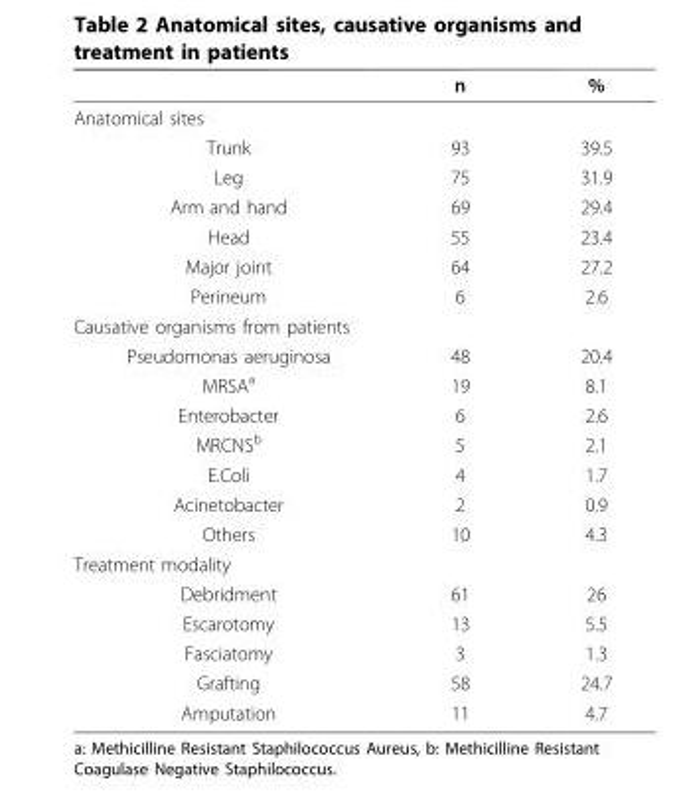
<table><thead><tr><td></td><td>n</td><td>%</td></tr></thead><tbody><tr><td colspan="3">Anatomical sites</td></tr><tr><td>Trunk</td><td>93</td><td>39.5</td></tr><tr><td>Leg</td><td>75</td><td>31.9</td></tr><tr><td>Arm and hand</td><td>69</td><td>29.4</td></tr><tr><td>Head</td><td>55</td><td>23.4</td></tr><tr><td>Major joint</td><td>64</td><td>27.2</td></tr><tr><td>Perineum</td><td>6</td><td>2.6</td></tr><tr><td colspan="3">Causative organisms from patients</td></tr><tr><td>Pseudomonas aeruginosa</td><td>48</td><td>20.4</td></tr><tr><td>MRSA<sup>a</sup></td><td>19</td><td>8.1</td></tr><tr><td>Enterobacter</td><td>6</td><td>2.6</td></tr><tr><td>MRCNS<sup>b</sup></td><td>5</td><td>2.1</td></tr><tr><td>E.Coli</td><td>4</td><td>1.7</td></tr><tr><td>Acinetobacter</td><td>2</td><td>0.9</td></tr><tr><td>Others</td><td>10</td><td>4.3</td></tr><tr><td colspan="3">Treatment modality</td></tr><tr><td>Debridment</td><td>61</td><td>26</td></tr><tr><td>Escarotomy</td><td>13</td><td>5.5</td></tr><tr><td>Fasciatomy</td><td>3</td><td>1.3</td></tr><tr><td>Grafting</td><td>58</td><td>24.7</td></tr><tr><td>Amputation</td><td>11</td><td>4.7</td></tr></tbody></table>